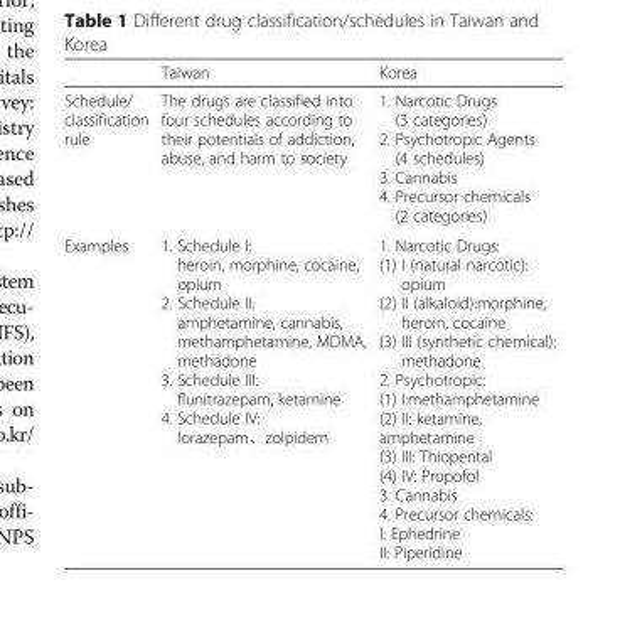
<table><thead><tr><td></td><td>Taiwan</td><td>Korea</td></tr></thead><tbody><tr><td>Schedule/ classification rule</td><td>The drugs are classified into four schedules according to their potentials of addiction, abuse, and harm to society</td><td>1. Narcotic Drugs (3 categories) 2. Psychotropic Agents (4 schedules) 3. Cannabis 4. Precursor chemicals (2 categories)</td></tr><tr><td>Examples</td><td>1. Schedule I: heroin, morphine, cocaine, opium 2. Schedule II: amphetamine, cannabis, methamphetamine, MDMA, methadone 3. Schedule III: flunitrazepam, ketamine 4. Schedule IV: lorazepam、zolpidem</td><td>1. Narcotic Drugs: (1) I (natural narcotic): opium (2) II (alkaloid):morphine, heroin, cocaine (3) III (synthetic chemical): methadone 2. Psychotropic: (1) I:methamphetamine (2) II: ketamine, amphetamine (3) III: Thiopental (4) IV: Propofol 3. Cannabis 4. Precursor chemicals: I: Ephedrine II: Piperidine</td></tr></tbody></table>